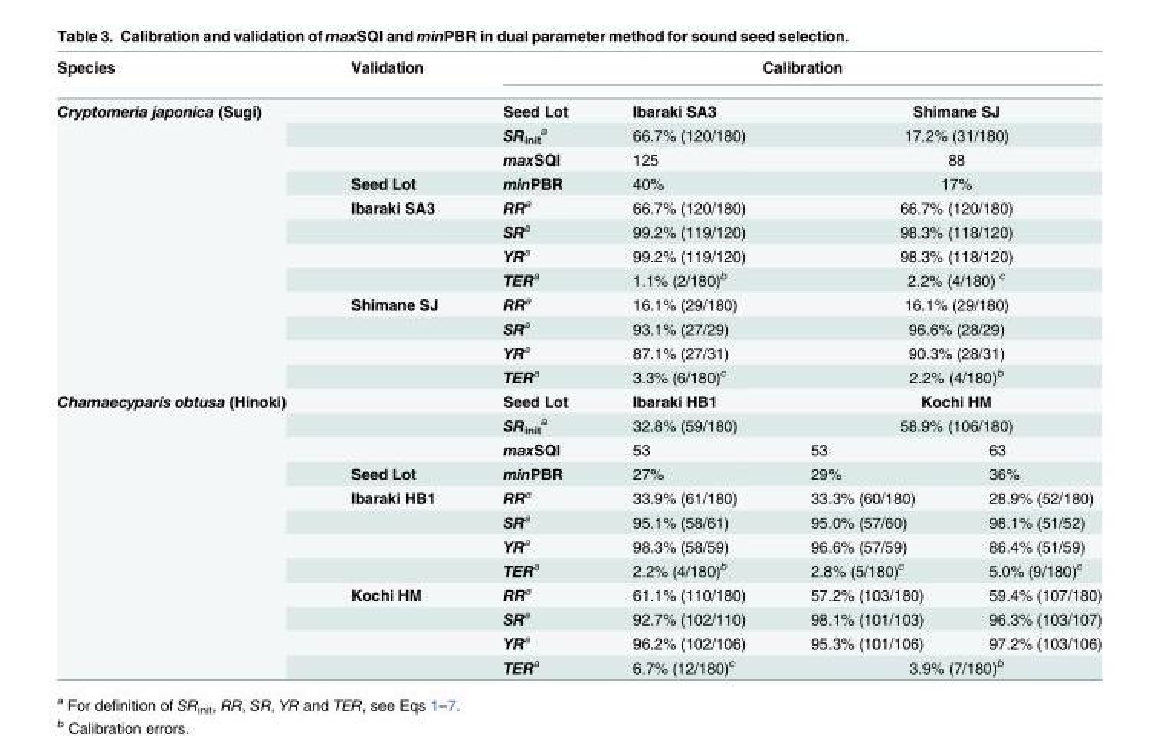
<table><thead><tr><td>Species</td><td>Validation</td><td colspan="4">Calibration</td></tr></thead><tbody><tr><td rowspan="12">Cryptomeria japonica (Sugi)</td><td></td><td>Seed Lot</td><td>Ibaraki SA3</td><td colspan="2">Shimane SJ</td></tr><tr><td></td><td>SR<sub>init</sub> <sup>a</sup></td><td>66.7% (120/180)</td><td colspan="2">17.2% (31/180)</td></tr><tr><td></td><td>maxSQI</td><td>125</td><td colspan="2">88</td></tr><tr><td>Seed Lot</td><td>minPBR</td><td>40%</td><td colspan="2">17%</td></tr><tr><td>Ibaraki SA3</td><td>RR<sup>a</sup></td><td>66.7% (120/180)</td><td colspan="2">66.7% (120/180)</td></tr><tr><td></td><td>SR<sup>a</sup></td><td>99.2% (119/120)</td><td colspan="2">98.3% (118/120)</td></tr><tr><td></td><td>YR<sup>a</sup></td><td>99.2% (119/120)</td><td colspan="2">98.3% (118/120)</td></tr><tr><td></td><td>TER<sup>a</sup></td><td>1.1% (2/180)<sup>b</sup></td><td colspan="2">2.2% (4/180) <sup>c</sup></td></tr><tr><td>Shimane SJ</td><td>RR<sup>a</sup></td><td>16.1% (29/180)</td><td colspan="2">16.1% (29/180)</td></tr><tr><td></td><td>SR<sup>a</sup></td><td>93.1% (27/29)</td><td colspan="2">96.6% (28/29)</td></tr><tr><td></td><td>YR<sup>a</sup></td><td>87.1% (27/31)</td><td colspan="2">90.3% (28/31)</td></tr><tr><td></td><td>TER<sup>a</sup></td><td>3.3% (6/180)<sup>c</sup></td><td colspan="2">2.2% (4/180)<sup>b</sup></td></tr><tr><td rowspan="12">Chamaecyparis obtusa (Hinoki)</td><td></td><td>Seed Lot</td><td>Ibaraki HB1</td><td colspan="2">Kochi HM</td></tr><tr><td></td><td>SR<sub>init</sub> <sup>a</sup></td><td>32.8% (59/180)</td><td colspan="2">58.9% (106/180)</td></tr><tr><td></td><td>maxSQI</td><td>53</td><td>53</td><td>63</td></tr><tr><td>Seed Lot</td><td>minPBR</td><td>27%</td><td>29%</td><td>36%</td></tr><tr><td>Ibaraki HB1</td><td>RR<sup>a</sup></td><td>33.9% (61/180)</td><td>33.3% (60/180)</td><td>28.9% (52/180)</td></tr><tr><td></td><td>SR<sup>a</sup></td><td>95.1% (58/61)</td><td>95.0% (57/60)</td><td>98.1% (51/52)</td></tr><tr><td></td><td>YR<sup>a</sup></td><td>98.3% (58/59)</td><td>96.6% (57/59)</td><td>86.4% (51/59)</td></tr><tr><td></td><td>TER<sup>a</sup></td><td>2.2% (4/180)<sup>b</sup></td><td>2.8% (5/180)<sup>c</sup></td><td>5.0% (9/180)<sup>c</sup></td></tr><tr><td>Kochi HM</td><td>RR<sup>a</sup></td><td>61.1% (110/180)</td><td>57.2% (103/180)</td><td>59.4% (107/180)</td></tr><tr><td></td><td>SR<sup>a</sup></td><td>92.7% (102/110)</td><td>98.1% (101/103)</td><td>96.3% (103/107)</td></tr><tr><td></td><td>YR<sup>a</sup></td><td>96.2% (102/106)</td><td>95.3% (101/106)</td><td>97.2% (103/106)</td></tr><tr><td></td><td>TER<sup>a</sup></td><td>6.7% (12/180)<sup>c</sup></td><td colspan="2">3.9% (7/180)<sup>b</sup></td></tr></tbody></table>